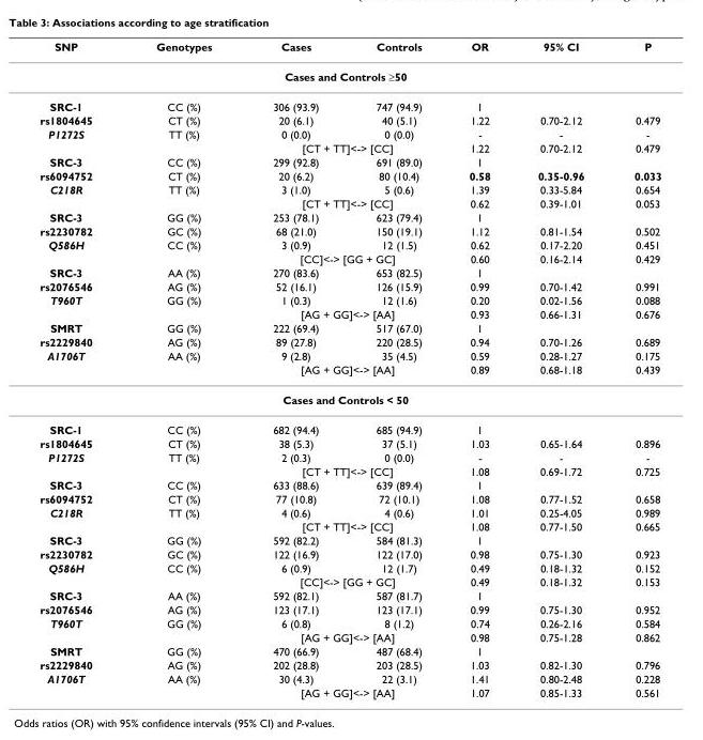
<table><thead><tr><td>SNP</td><td>Genotypes</td><td>Cases</td><td>Controls</td><td>OR</td><td>95% CI</td><td>P</td></tr></thead><tbody><tr><td colspan="7">Cases and Controls ≥50</td></tr><tr><td>SRC-1</td><td>CC (%)</td><td>306 (93.9)</td><td>747 (94.9)</td><td>1</td><td></td><td></td></tr><tr><td>rs1804645</td><td>CT (%)</td><td>20 (6.1)</td><td>40 (5.1)</td><td>1.22</td><td>0.70-2.12</td><td>0.479</td></tr><tr><td rowspan="2">P1272S</td><td>TT (%)</td><td>0 (0.0)</td><td>0 (0.0)</td><td>-</td><td>-</td><td>-</td></tr><tr><td></td><td colspan="2">[CT + TT]&lt;-&gt; [CC]</td><td>1.22</td><td>0.70-2.12</td><td>0.479</td></tr><tr><td>SRC-3</td><td>CC (%)</td><td>299 (92.8)</td><td>691 (89.0)</td><td>1</td><td></td><td></td></tr><tr><td>rs6094752</td><td>CT (%)</td><td>20 (6.2)</td><td>80 (10.4)</td><td>0.58</td><td>0.35-0.96</td><td>0.033</td></tr><tr><td rowspan="2">C218R</td><td>TT (%)</td><td>3 (1.0)</td><td>5 (0.6)</td><td>1.39</td><td>0.33-5.84</td><td>0.654</td></tr><tr><td></td><td colspan="2">[CT + TT]&lt;-&gt; [CC]</td><td>0.62</td><td>0.39-1.01</td><td>0.053</td></tr><tr><td>SRC-3</td><td>GG (%)</td><td>253 (78.1)</td><td>623 (79.4)</td><td>1</td><td></td><td></td></tr><tr><td>rs2230782</td><td>GC (%)</td><td>68 (21.0)</td><td>150 (19.1)</td><td>1.12</td><td>0.81-1.54</td><td>0.502</td></tr><tr><td rowspan="2">Q586H</td><td>CC (%)</td><td>3 (0.9)</td><td>12 (1.5)</td><td>0.62</td><td>0.17-2.20</td><td>0.451</td></tr><tr><td></td><td colspan="2">[CC]&lt;-&gt; [GG + GC]</td><td>0.60</td><td>0.16-2.14</td><td>0.429</td></tr><tr><td>SRC-3</td><td>AA (%)</td><td>270 (83.6)</td><td>653 (82.5)</td><td>1</td><td></td><td></td></tr><tr><td>rs2076546</td><td>AG (%)</td><td>52 (16.1)</td><td>126 (15.9)</td><td>0.99</td><td>0.70-1.42</td><td>0.991</td></tr><tr><td rowspan="2">T960T</td><td>GG (%)</td><td>1 (0.3)</td><td>12 (1.6)</td><td>0.20</td><td>0.02-1.56</td><td>0.088</td></tr><tr><td></td><td colspan="2">[AG + GG]&lt;-&gt; [AA]</td><td>0.93</td><td>0.66-1.31</td><td>0.676</td></tr><tr><td>SMRT</td><td>GG (%)</td><td>222 (69.4)</td><td>517 (67.0)</td><td>1</td><td></td><td></td></tr><tr><td>rs2229840</td><td>AG (%)</td><td>89 (27.8)</td><td>220 (28.5)</td><td>0.94</td><td>0.70-1.26</td><td>0.689</td></tr><tr><td rowspan="2">A1706T</td><td>AA (%)</td><td>9 (2.8)</td><td>35 (4.5)</td><td>0.59</td><td>0.28-1.27</td><td>0.175</td></tr><tr><td></td><td colspan="2">[AG + GG]&lt;-&gt; [AA]</td><td>0.89</td><td>0.68-1.18</td><td>0.439</td></tr><tr><td colspan="7">Cases and Controls &lt; 50</td></tr><tr><td>SRC-1</td><td>CC (%)</td><td>682 (94.4)</td><td>685 (94.9)</td><td>1</td><td></td><td></td></tr><tr><td>rs1804645</td><td>CT (%)</td><td>38 (5.3)</td><td>37 (5.1)</td><td>1.03</td><td>0.65-1.64</td><td>0.896</td></tr><tr><td rowspan="2">P1272S</td><td>TT (%)</td><td>2 (0.3)</td><td>0 (0.0)</td><td>-</td><td>-</td><td>-</td></tr><tr><td></td><td colspan="2">[CT + TT]&lt;-&gt; [CC]</td><td>1.08</td><td>0.69-1.72</td><td>0.725</td></tr><tr><td>SRC-3</td><td>CC (%)</td><td>633 (88.6)</td><td>639 (89.4)</td><td>1</td><td></td><td></td></tr><tr><td>rs6094752</td><td>CT (%)</td><td>77 (10.8)</td><td>72 (10.1)</td><td>1.08</td><td>0.77-1.52</td><td>0.658</td></tr><tr><td rowspan="2">C218R</td><td>TT (%)</td><td>4 (0.6)</td><td>4 (0.6)</td><td>1.01</td><td>0.25-4.05</td><td>0.989</td></tr><tr><td></td><td colspan="2">[CT + TT]&lt;-&gt; [CC]</td><td>1.08</td><td>0.77-1.50</td><td>0.665</td></tr><tr><td>SRC-3</td><td>GG (%)</td><td>592 (82.2)</td><td>584 (81.3)</td><td>1</td><td></td><td></td></tr><tr><td>rs2230782</td><td>GC (%)</td><td>122 (16.9)</td><td>122 (17.0)</td><td>0.98</td><td>0.75-1.30</td><td>0.923</td></tr><tr><td rowspan="2">Q586H</td><td>CC (%)</td><td>6 (0.9)</td><td>12 (1.7)</td><td>0.49</td><td>0.18-1.32</td><td>0.152</td></tr><tr><td></td><td colspan="2">[CC]&lt;-&gt; [GG + GC]</td><td>0.49</td><td>0.18-1.32</td><td>0.153</td></tr><tr><td>SRC-3</td><td>AA (%)</td><td>592 (82.1)</td><td>587 (81.7)</td><td>1</td><td></td><td></td></tr><tr><td>rs2076546</td><td>AG (%)</td><td>123 (17.1)</td><td>123 (17.1)</td><td>0.99</td><td>0.75-1.30</td><td>0.952</td></tr><tr><td rowspan="2">T960T</td><td>GG (%)</td><td>6 (0.8)</td><td>8 (1.2)</td><td>0.74</td><td>0.26-2.16</td><td>0.584</td></tr><tr><td></td><td colspan="2">[AG + GG]&lt;-&gt; [AA]</td><td>0.98</td><td>0.75-1.28</td><td>0.862</td></tr><tr><td>SMRT</td><td>GG (%)</td><td>470 (66.9)</td><td>487 (68.4)</td><td>1</td><td></td><td></td></tr><tr><td>rs2229840</td><td>AG (%)</td><td>202 (28.8)</td><td>203 (28.5)</td><td>1.03</td><td>0.82-1.30</td><td>0.796</td></tr><tr><td rowspan="2">A1706T</td><td>AA (%)</td><td>30 (4.3)</td><td>22 (3.1)</td><td>1.41</td><td>0.80-2.48</td><td>0.228</td></tr><tr><td></td><td colspan="2">[AG + GG]&lt;-&gt; [AA]</td><td>1.07</td><td>0.85-1.33</td><td>0.561</td></tr></tbody></table>